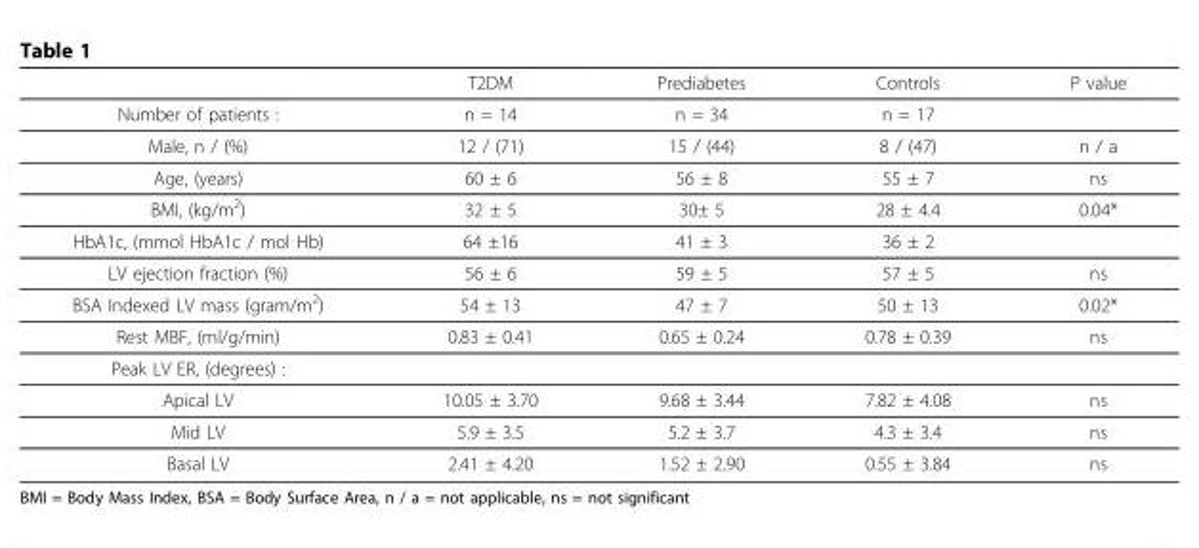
<table><thead><tr><td></td><td>T2DM</td><td>Prediabetes</td><td>Controls</td><td>P value</td></tr></thead><tbody><tr><td>Number of patients :</td><td>n = 14</td><td>n = 34</td><td>n = 17</td><td></td></tr><tr><td>Male, n / (%)</td><td>12 / (71)</td><td>15 / (44)</td><td>8 / (47)</td><td>n / a</td></tr><tr><td>Age, (years)</td><td>60 ± 6</td><td>56 ± 8</td><td>55 ± 7</td><td>ns</td></tr><tr><td>BMI, (kg/m<sup>2</sup>)</td><td>32 ± 5</td><td>30± 5</td><td>28 ± 4.4</td><td>0.04*</td></tr><tr><td>HbA1c, (mmol HbA1c / mol Hb)</td><td>64 ±16</td><td>41 ± 3</td><td>36 ± 2</td><td></td></tr><tr><td>LV ejection fraction (%)</td><td>56 ± 6</td><td>59 ± 5</td><td>57 ± 5</td><td>ns</td></tr><tr><td>BSA Indexed LV mass (gram/m<sup>2</sup>)</td><td>54 ± 13</td><td>47 ± 7</td><td>50 ± 13</td><td>0.02*</td></tr><tr><td>Rest MBF, (ml/g/min)</td><td>0.83 ± 0.41</td><td>0.65 ± 0.24</td><td>0.78 ± 0.39</td><td>ns</td></tr><tr><td colspan="5">Peak LV ER, (degrees) :</td></tr><tr><td>Apical LV</td><td>10.05 ± 3.70</td><td>9.68 ± 3.44</td><td>7.82 ± 4.08</td><td>ns</td></tr><tr><td>Mid LV</td><td>5.9 ± 3.5</td><td>5.2 ± 3.7</td><td>4.3 ± 3.4</td><td>ns</td></tr><tr><td>Basal LV</td><td>2.41 ± 4.20</td><td>1.52 ± 2.90</td><td>0.55 ± 3.84</td><td>ns</td></tr></tbody></table>